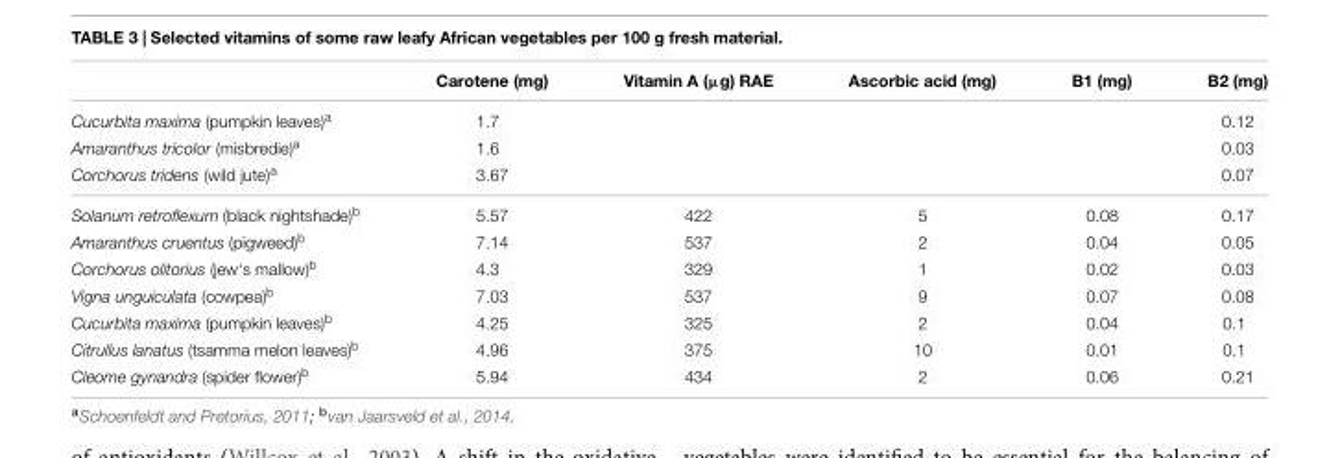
<table><thead><tr><td></td><td>Carotene (mg)</td><td>Vitamin A (µg) RAE</td><td>Ascorbic acid (mg)</td><td>B1 (mg)</td><td>B2 (mg)</td></tr></thead><tbody><tr><td>Cucurbita maxima (pumpkin leaves)<sup>a</sup></td><td>1.7</td><td></td><td></td><td></td><td>0.12</td></tr><tr><td>Amaranthus tricolor (misbredie)<sup>a</sup></td><td>1.6</td><td></td><td></td><td></td><td>0.03</td></tr><tr><td>Corchorus tridens (wild jute)<sup>a</sup></td><td>3.67</td><td></td><td></td><td></td><td>0.07</td></tr><tr><td>Solanum retroflexum (black nightshade)<sup>b</sup></td><td>5.57</td><td>422</td><td>5</td><td>0.08</td><td>0.17</td></tr><tr><td>Amaranthus cruentus (pigweed)<sup>b</sup></td><td>7.14</td><td>537</td><td>2</td><td>0.04</td><td>0.05</td></tr><tr><td>Corchorus olitorius (jew‘s mallow)<sup>b</sup></td><td>4.3</td><td>329</td><td>1</td><td>0.02</td><td>0.03</td></tr><tr><td>Vigna unguiculata (cowpea)<sup>b</sup></td><td>7.03</td><td>537</td><td>9</td><td>0.07</td><td>0.08</td></tr><tr><td>Cucurbita maxima (pumpkin leaves)<sup>b</sup></td><td>4.25</td><td>325</td><td>2</td><td>0.04</td><td>0.1</td></tr><tr><td>Citrullus lanatus (tsamma melon leaves)<sup>b</sup></td><td>4.96</td><td>375</td><td>10</td><td>0.01</td><td>0.1</td></tr><tr><td>Cleome gynandra (spider flower)<sup>b</sup></td><td>5.94</td><td>434</td><td>2</td><td>0.06</td><td>0.21</td></tr></tbody></table>